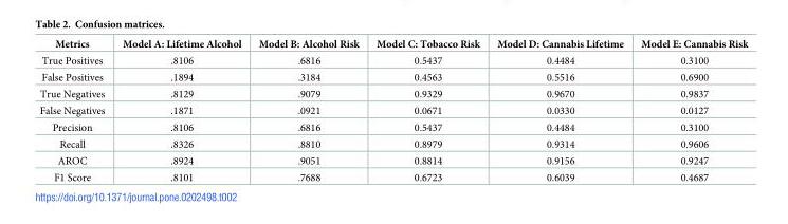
<table><thead><tr><td>Metrics</td><td>Model A: Lifetime Alcohol</td><td>Model B: Alcohol Risk</td><td>Model C: Tobacco Risk</td><td>Model D: Cannabis Lifetime</td><td>Model E: Cannabis Risk</td></tr></thead><tbody><tr><td>True Positives</td><td>.8106</td><td>.6816</td><td>0.5437</td><td>0.4484</td><td>0.3100</td></tr><tr><td>False Positives</td><td>.1894</td><td>.3184</td><td>0.4563</td><td>0.5516</td><td>0.6900</td></tr><tr><td>True Negatives</td><td>.8129</td><td>.9079</td><td>0.9329</td><td>0.9670</td><td>0.9837</td></tr><tr><td>False Negatives</td><td>.1871</td><td>.0921</td><td>0.0671</td><td>0.0330</td><td>0.0127</td></tr><tr><td>Precision</td><td>.8106</td><td>.6816</td><td>0.5437</td><td>0.4484</td><td>0.3100</td></tr><tr><td>Recall</td><td>.8326</td><td>.8810</td><td>0.8979</td><td>0.9314</td><td>0.9606</td></tr><tr><td>AROC</td><td>.8924</td><td>.9051</td><td>0.8814</td><td>0.9156</td><td>0.9247</td></tr><tr><td>F1 Score</td><td>.8101</td><td>.7688</td><td>0.6723</td><td>0.6039</td><td>0.4687</td></tr></tbody></table>